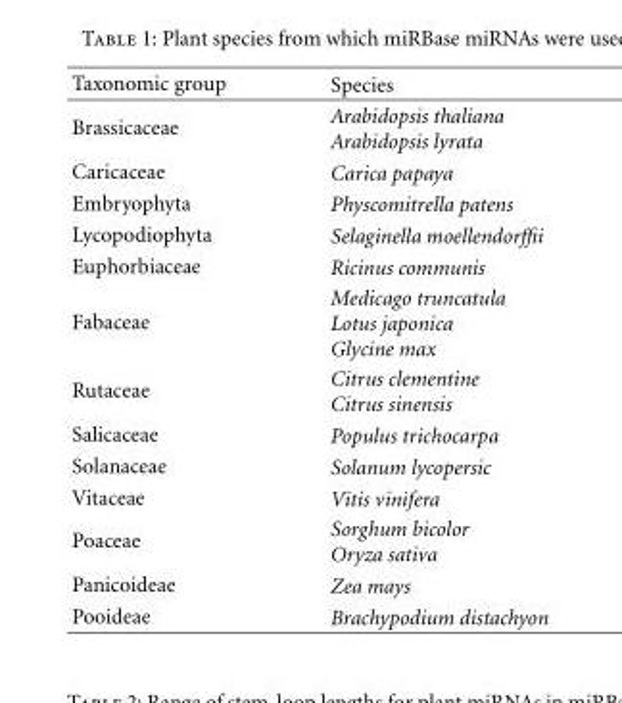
<table><thead><tr><td>Taxonomic group</td><td>Species</td></tr></thead><tbody><tr><td>Brassicaceae</td><td>Arabidopsis thaliana Arabidopsis lyrata</td></tr><tr><td>Caricaceae</td><td>Carica papaya</td></tr><tr><td>Embryophyta</td><td>Physcomitrella patens</td></tr><tr><td>Lycopodiophyta</td><td>Selaginella moellendorffii</td></tr><tr><td>Euphorbiaceae</td><td>Ricinus communis</td></tr><tr><td>Fabaceae</td><td>Medicago truncatula Lotus japonica Glycine max</td></tr><tr><td>Rutaceae</td><td>Citrus clementine Citrus sinensis</td></tr><tr><td>Salicaceae</td><td>Populus trichocarpa</td></tr><tr><td>Solanaceae</td><td>Solanum lycopersic</td></tr><tr><td>Vitaceae</td><td>Vitis vinifera</td></tr><tr><td>Poaceae</td><td>Sorghum bicolor Oryza sativa</td></tr><tr><td>Panicoideae</td><td>Zea mays</td></tr><tr><td>Pooideae</td><td>Brachypodium distachyon</td></tr></tbody></table>